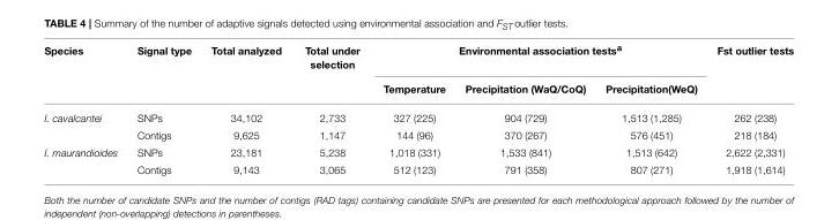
<table><thead><tr><td rowspan="2">Species</td><td rowspan="2">Signal type</td><td rowspan="2">Total analyzed</td><td rowspan="2">Total under selection</td><td colspan="3">Environmental association tests<sup>a</sup></td><td rowspan="2">Fst outlier tests</td></tr><tr><td>Temperature</td><td>Precipitation (WaQ/CoQ)</td><td>Precipitation(WeQ)</td></tr></thead><tbody><tr><td rowspan="2">I. cavalcantei</td><td>SNPs</td><td>34,102</td><td>2,733</td><td>327 (225)</td><td>904 (729)</td><td>1,513 (1,285)</td><td>262 (238)</td></tr><tr><td>Contigs</td><td>9,625</td><td>1,147</td><td>144 (96)</td><td>370 (267)</td><td>576 (451)</td><td>218 (184)</td></tr><tr><td rowspan="2">I. maurandioides</td><td>SNPs</td><td>23,181</td><td>5,238</td><td>1,018 (331)</td><td>1,533 (841)</td><td>1,513 (642)</td><td>2,622 (2,331)</td></tr><tr><td>Contigs</td><td>9,143</td><td>3,065</td><td>512 (123)</td><td>791 (358)</td><td>807 (271)</td><td>1,918 (1,614)</td></tr></tbody></table>